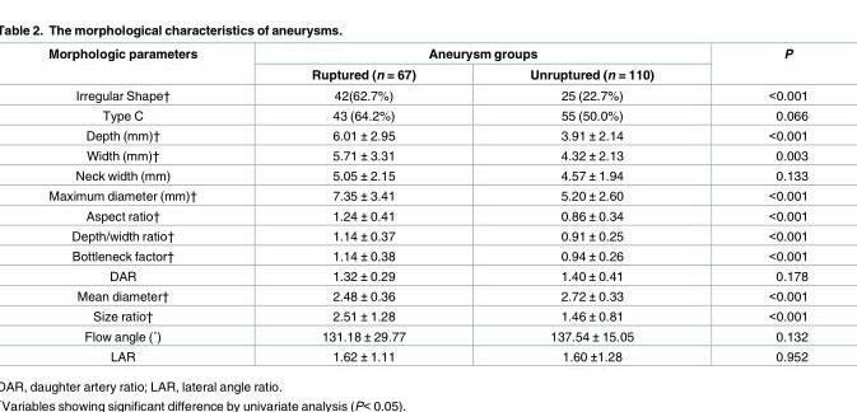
<table><thead><tr><td rowspan="2">Morphologic parameters</td><td colspan="2">Aneurysm groups</td><td rowspan="2">P</td></tr><tr><td>Ruptured (n = 67)</td><td>Unruptured (n = 110)</td></tr></thead><tbody><tr><td>Irregular Shape†</td><td>42(62.7%)</td><td>25 (22.7%)</td><td>&lt;0.001</td></tr><tr><td>Type C</td><td>43 (64.2%)</td><td>55 (50.0%)</td><td>0.066</td></tr><tr><td>Depth (mm)†</td><td>6.01 ± 2.95</td><td>3.91 ± 2.14</td><td>&lt;0.001</td></tr><tr><td>Width (mm)†</td><td>5.71 ± 3.31</td><td>4.32 ± 2.13</td><td>0.003</td></tr><tr><td>Neck width (mm)</td><td>5.05 ± 2.15</td><td>4.57 ± 1.94</td><td>0.133</td></tr><tr><td>Maximum diameter (mm)†</td><td>7.35 ± 3.41</td><td>5.20 ± 2.60</td><td>&lt;0.001</td></tr><tr><td>Aspect ratio†</td><td>1.24 ± 0.41</td><td>0.86 ± 0.34</td><td>&lt;0.001</td></tr><tr><td>Depth/width ratio†</td><td>1.14 ± 0.37</td><td>0.91 ± 0.25</td><td>&lt;0.001</td></tr><tr><td>Bottleneck factor†</td><td>1.14 ± 0.38</td><td>0.94 ± 0.26</td><td>&lt;0.001</td></tr><tr><td>DAR</td><td>1.32 ± 0.29</td><td>1.40 ± 0.41</td><td>0.178</td></tr><tr><td>Mean diameter†</td><td>2.48 ± 0.36</td><td>2.72 ± 0.33</td><td>&lt;0.001</td></tr><tr><td>Size ratio†</td><td>2.51 ± 1.28</td><td>1.46 ± 0.81</td><td>&lt;0.001</td></tr><tr><td>Flow angle (˚)</td><td>131.18 ± 29.77</td><td>137.54 ± 15.05</td><td>0.132</td></tr><tr><td>LAR</td><td>1.62 ± 1.11</td><td>1.60 ±1.28</td><td>0.952</td></tr></tbody></table>